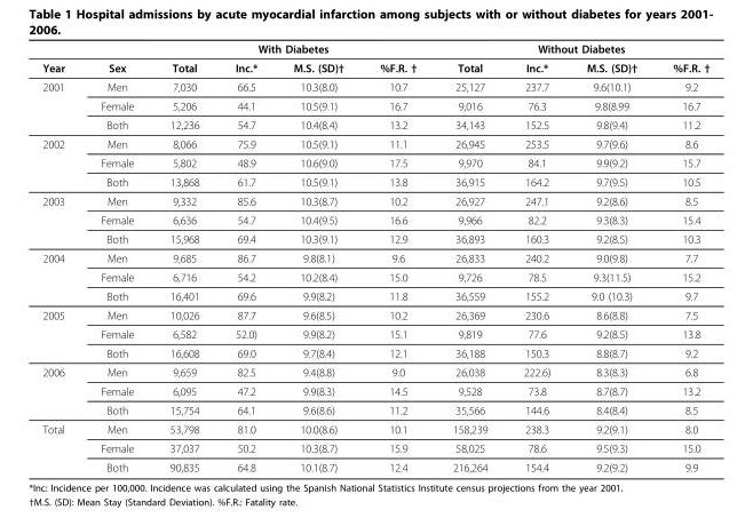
<table><thead><tr><td rowspan="2">Year</td><td rowspan="2">Sex</td><td colspan="4">With Diabetes</td><td colspan="4">Without Diabetes</td></tr><tr><td>Total</td><td>Inc.*</td><td>M.S. (SD)†</td><td>%F.R. †</td><td>Total</td><td>Inc.*</td><td>M.S. (SD)†</td><td>%F.R. †</td></tr></thead><tbody><tr><td rowspan="3">2001</td><td>Men</td><td>7,030</td><td>66.5</td><td>10.3(8.0)</td><td>10.7</td><td>25,127</td><td>237.7</td><td>9.6(10.1)</td><td>9.2</td></tr><tr><td>Female</td><td>5,206</td><td>44.1</td><td>10.5(9.1)</td><td>16.7</td><td>9,016</td><td>76.3</td><td>9.8(8.99</td><td>16.7</td></tr><tr><td>Both</td><td>12,236</td><td>54.7</td><td>10.4(8.4)</td><td>13.2</td><td>34,143</td><td>152.5</td><td>9.8(9.4)</td><td>11.2</td></tr><tr><td rowspan="3">2002</td><td>Men</td><td>8,066</td><td>75.9</td><td>10.5(9.1)</td><td>11.1</td><td>26,945</td><td>253.5</td><td>9.7(9.6)</td><td>8.6</td></tr><tr><td>Female</td><td>5,802</td><td>48.9</td><td>10.6(9.0)</td><td>17.5</td><td>9,970</td><td>84.1</td><td>9.9(9.2)</td><td>15.7</td></tr><tr><td>Both</td><td>13,868</td><td>61.7</td><td>10.5(9.1)</td><td>13.8</td><td>36,915</td><td>164.2</td><td>9.7(9.5)</td><td>10.5</td></tr><tr><td rowspan="3">2003</td><td>Men</td><td>9,332</td><td>85.6</td><td>10.3(8.7)</td><td>10.2</td><td>26,927</td><td>247.1</td><td>9.2(8.6)</td><td>8.5</td></tr><tr><td>Female</td><td>6,636</td><td>54.7</td><td>10.4(9.5)</td><td>16.6</td><td>9,966</td><td>82.2</td><td>9.3(8.3)</td><td>15.4</td></tr><tr><td>Both</td><td>15,968</td><td>69.4</td><td>10.3(9.1)</td><td>12.9</td><td>36,893</td><td>160.3</td><td>9.2(8.5)</td><td>10.3</td></tr><tr><td rowspan="3">2004</td><td>Men</td><td>9,685</td><td>86.7</td><td>9.8(8.1)</td><td>9.6</td><td>26,833</td><td>240.2</td><td>9.0(9.8)</td><td>7.7</td></tr><tr><td>Female</td><td>6,716</td><td>54.2</td><td>10.2(8.4)</td><td>15.0</td><td>9,726</td><td>78.5</td><td>9.3(11.5)</td><td>15.2</td></tr><tr><td>Both</td><td>16,401</td><td>69.6</td><td>9.9(8.2)</td><td>11.8</td><td>36,559</td><td>155.2</td><td>9.0 (10.3)</td><td>9.7</td></tr><tr><td rowspan="3">2005</td><td>Men</td><td>10,026</td><td>87.7</td><td>9.6(8.5)</td><td>10.2</td><td>26,369</td><td>230.6</td><td>8.6(8.8)</td><td>7.5</td></tr><tr><td>Female</td><td>6,582</td><td>52.0)</td><td>9.9(8.2)</td><td>15.1</td><td>9,819</td><td>77.6</td><td>9.2(8.5)</td><td>13.8</td></tr><tr><td>Both</td><td>16,608</td><td>69.0</td><td>9.7(8.4)</td><td>12.1</td><td>36,188</td><td>150.3</td><td>8.8(8.7)</td><td>9.2</td></tr><tr><td rowspan="3">2006</td><td>Men</td><td>9,659</td><td>82.5</td><td>9.4(8.8)</td><td>9.0</td><td>26,038</td><td>222.6)</td><td>8.3(8.3)</td><td>6.8</td></tr><tr><td>Female</td><td>6,095</td><td>47.2</td><td>9.9(8.3)</td><td>14.5</td><td>9,528</td><td>73.8</td><td>8.7(8.7)</td><td>13.2</td></tr><tr><td>Both</td><td>15,754</td><td>64.1</td><td>9.6(8.6)</td><td>11.2</td><td>35,566</td><td>144.6</td><td>8.4(8.4)</td><td>8.5</td></tr><tr><td rowspan="3">Total</td><td>Men</td><td>53,798</td><td>81.0</td><td>10.0(8.6)</td><td>10.1</td><td>158,239</td><td>238.3</td><td>9.2(9.1)</td><td>8.0</td></tr><tr><td>Female</td><td>37,037</td><td>50.2</td><td>10.3(8.7)</td><td>15.9</td><td>58,025</td><td>78.6</td><td>9.5(9.3)</td><td>15.0</td></tr><tr><td>Both</td><td>90,835</td><td>64.8</td><td>10.1(8.7)</td><td>12.4</td><td>216,264</td><td>154.4</td><td>9.2(9.2)</td><td>9.9</td></tr></tbody></table>